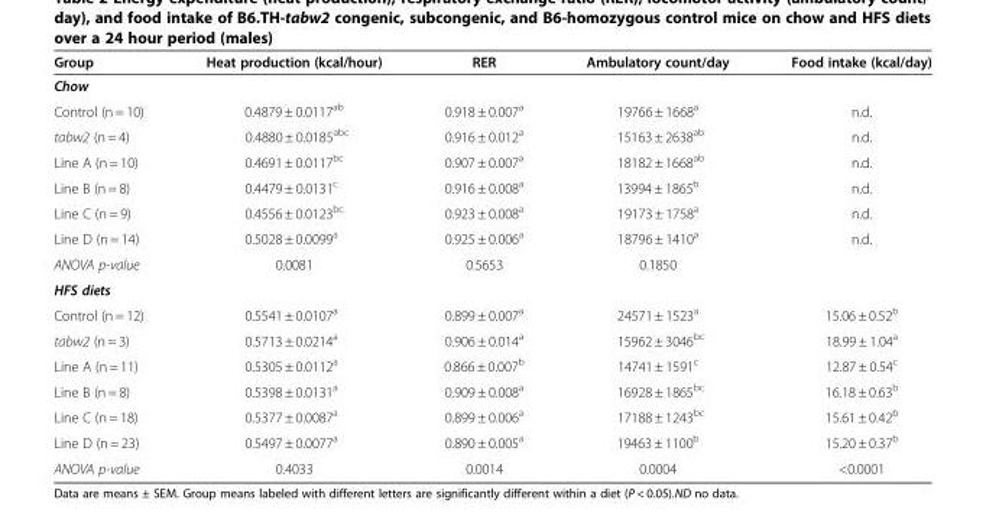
<table><thead><tr><td>Group</td><td>Heat production (kcal/hour)</td><td>RER</td><td>Ambulatory count/day</td><td>Food intake (kcal/day)</td></tr></thead><tbody><tr><td colspan="5">Chow</td></tr><tr><td>Control (n = 10)</td><td>0.4879 ± 0.0117<sup>ab</sup></td><td>0.918 ± 0.007<sup>a</sup></td><td>19766 ± 1668<sup>a</sup></td><td>n.d.</td></tr><tr><td>tabw2 (n = 4)</td><td>0.4880 ± 0.0185<sup>abc</sup></td><td>0.916 ± 0.012<sup>a</sup></td><td>15163 ± 2638<sup>ab</sup></td><td>n.d.</td></tr><tr><td>Line A (n = 10)</td><td>0.4691 ± 0.0117<sup>bc</sup></td><td>0.907 ± 0.007<sup>a</sup></td><td>18182 ± 1668<sup>ab</sup></td><td>n.d.</td></tr><tr><td>Line B (n = 8)</td><td>0.4479 ± 0.0131<sup>c</sup></td><td>0.916 ± 0.008<sup>a</sup></td><td>13994 ± 1865<sup>b</sup></td><td>n.d.</td></tr><tr><td>Line C (n = 9)</td><td>0.4556 ± 0.0123<sup>bc</sup></td><td>0.923 ± 0.008<sup>a</sup></td><td>19173 ± 1758<sup>a</sup></td><td>n.d.</td></tr><tr><td>Line D (n = 14)</td><td>0.5028 ± 0.0099<sup>a</sup></td><td>0.925 ± 0.006<sup>a</sup></td><td>18796 ± 1410<sup>a</sup></td><td>n.d.</td></tr><tr><td>ANOVA p-value</td><td>0.0081</td><td>0.5653</td><td>0.1850</td><td></td></tr><tr><td colspan="5">HFS diets</td></tr><tr><td>Control (n = 12)</td><td>0.5541 ± 0.0107<sup>a</sup></td><td>0.899 ± 0.007<sup>a</sup></td><td>24571 ± 1523<sup>a</sup></td><td>15.06 ± 0.52<sup>b</sup></td></tr><tr><td>tabw2 (n = 3)</td><td>0.5713 ± 0.0214<sup>a</sup></td><td>0.906 ± 0.014<sup>a</sup></td><td>15962 ± 3046<sup>bc</sup></td><td>18.99 ± 1.04<sup>a</sup></td></tr><tr><td>Line A (n = 11)</td><td>0.5305 ± 0.0112<sup>a</sup></td><td>0.866 ± 0.007<sup>b</sup></td><td>14741 ± 1591<sup>c</sup></td><td>12.87 ± 0.54<sup>c</sup></td></tr><tr><td>Line B (n = 8)</td><td>0.5398 ± 0.0131<sup>a</sup></td><td>0.909 ± 0.008<sup>a</sup></td><td>16928 ± 1865<sup>bc</sup></td><td>16.18 ± 0.63<sup>b</sup></td></tr><tr><td>Line C (n = 18)</td><td>0.5377 ± 0.0087<sup>a</sup></td><td>0.899 ± 0.006<sup>a</sup></td><td>17188 ± 1243<sup>bc</sup></td><td>15.61 ± 0.42<sup>b</sup></td></tr><tr><td>Line D (n = 23)</td><td>0.5497 ± 0.0077<sup>a</sup></td><td>0.890 ± 0.005<sup>a</sup></td><td>19463 ± 1100<sup>b</sup></td><td>15.20 ± 0.37<sup>b</sup></td></tr><tr><td>ANOVA p-value</td><td>0.4033</td><td>0.0014</td><td>0.0004</td><td>&lt;0.0001</td></tr></tbody></table>